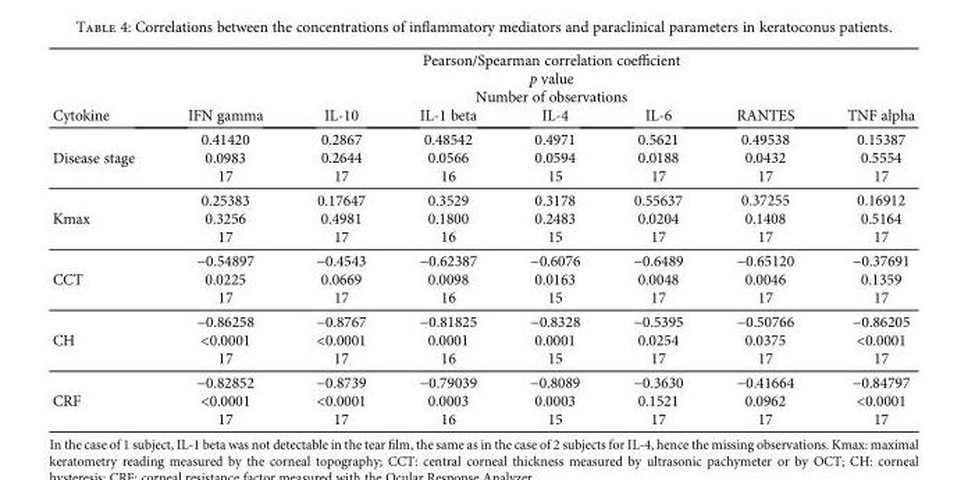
<table><thead><tr><td rowspan="4">Cytokine</td><td rowspan="3" colspan="7">Pearson/Spearman correlation coefficient p value Number of observations</td></tr><tr></tr><tr></tr><tr><td>IFN gamma</td><td>IL-10</td><td>IL-1 beta</td><td>IL-4</td><td>IL-6</td><td>RANTES</td><td>TNF alpha</td></tr></thead><tbody><tr><td>Disease stage</td><td>0.41420 0.0983 17</td><td>0.2867 0.2644 17</td><td>0.48542 0.0566 16</td><td>0.4971 0.0594 15</td><td>0.5621 0.0188 17</td><td>0.49538 0.0432 17</td><td>0.15387 0.5554 17</td></tr><tr><td>Kmax</td><td>0.25383 0.3256 17</td><td>0.17647 0.4981 17</td><td>0.3529 0.1800 16</td><td>0.3178 0.2483 15</td><td>0.55637 0.0204 17</td><td>0.37255 0.1408 17</td><td>0.16912 0.5164 17</td></tr><tr><td>CCT</td><td>−0.54897 0.0225 17</td><td>−0.4543 0.0669 17</td><td>−0.62387 0.0098 16</td><td>−0.6076 0.0163 15</td><td>−0.6489 0.0048 17</td><td>−0.65120 0.0046 17</td><td>−0.37691 0.1359 17</td></tr><tr><td>CH</td><td>−0.86258 &lt;0.0001 17</td><td>−0.8767 &lt;0.0001 17</td><td>−0.81825 0.0001 16</td><td>−0.8328 0.0001 15</td><td>−0.5395 0.0254 17</td><td>−0.50766 0.0375 17</td><td>−0.86205 &lt;0.0001 17</td></tr><tr><td>CRF</td><td>−0.82852 &lt;0.0001 17</td><td>−0.8739 &lt;0.0001 17</td><td>−0.79039 0.0003 16</td><td>−0.8089 0.0003 15</td><td>−0.3630 0.1521 17</td><td>−0.41664 0.0962 17</td><td>−0.84797 &lt;0.0001 17</td></tr></tbody></table>